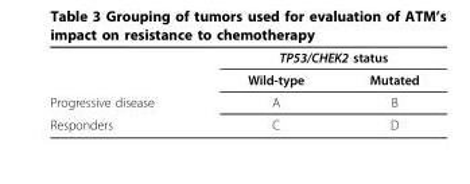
<table><thead><tr><td rowspan="2"></td><td colspan="2">TP53/CHEK2 status</td></tr><tr><td>Wild-type</td><td>Mutated</td></tr></thead><tbody><tr><td>Progressive disease</td><td>A</td><td>B</td></tr><tr><td>Responders</td><td>C</td><td>D</td></tr></tbody></table>